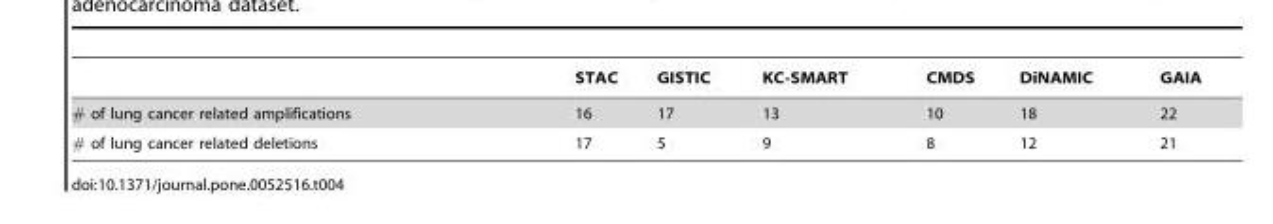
<table><thead><tr><td></td><td>STAC</td><td>GISTIC</td><td>KC-SMART</td><td>CMDS</td><td>DiNAMIC</td><td>GAIA</td></tr></thead><tbody><tr><td># of lung cancer related amplifications</td><td>16</td><td>17</td><td>13</td><td>10</td><td>18</td><td>22</td></tr><tr><td># of lung cancer related deletions</td><td>17</td><td>5</td><td>9</td><td>8</td><td>12</td><td>21</td></tr></tbody></table>